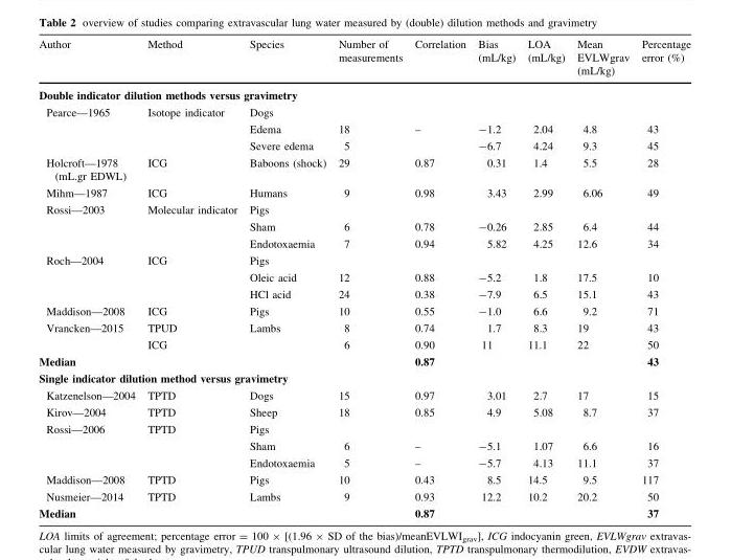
<table><thead><tr><td>Author</td><td>Method</td><td>Species</td><td>Number of measurements</td><td>Correlation</td><td>Bias (mL/kg)</td><td>LOA (mL/kg)</td><td>Mean EVLWgrav (mL/kg)</td><td>Percentage error (%)</td></tr></thead><tbody><tr><td colspan="9">Double indicator dilution methods versus gravimetry</td></tr><tr><td rowspan="3">Pearce—1965</td><td rowspan="3">Isotope indicator</td><td colspan="7">Dogs</td></tr><tr><td>Edema</td><td>18</td><td>–</td><td>-1.2</td><td>2.04</td><td>4.8</td><td>43</td></tr><tr><td>Severe edema</td><td>5</td><td></td><td>-6.7</td><td>4.24</td><td>9.3</td><td>45</td></tr><tr><td>Holcroft—1978 (mL.gr EDWL)</td><td>ICG</td><td>Baboons (shock)</td><td>29</td><td>0.87</td><td>0.31</td><td>1.4</td><td>5.5</td><td>28</td></tr><tr><td>Mihm—1987</td><td>ICG</td><td>Humans</td><td>9</td><td>0.98</td><td>3.43</td><td>2.99</td><td>6.06</td><td>49</td></tr><tr><td rowspan="3">Rossi—2003</td><td rowspan="3">Molecular indicator</td><td colspan="7">Pigs</td></tr><tr><td>Sham</td><td>6</td><td>0.78</td><td>-0.26</td><td>2.85</td><td>6.4</td><td>44</td></tr><tr><td>Endotoxaemia</td><td>7</td><td>0.94</td><td>5.82</td><td>4.25</td><td>12.6</td><td>34</td></tr><tr><td rowspan="3">Roch—2004</td><td rowspan="3">ICG</td><td colspan="7">Pigs</td></tr><tr><td>Oleic acid</td><td>12</td><td>0.88</td><td>-5.2</td><td>1.8</td><td>17.5</td><td>10</td></tr><tr><td>HCl acid</td><td>24</td><td>0.38</td><td>-7.9</td><td>6.5</td><td>15.1</td><td>43</td></tr><tr><td>Maddison—2008</td><td>ICG</td><td>Pigs</td><td>10</td><td>0.55</td><td>-1.0</td><td>6.6</td><td>9.2</td><td>71</td></tr><tr><td rowspan="2">Vrancken—2015</td><td>TPUD</td><td rowspan="2">Lambs</td><td>8</td><td>0.74</td><td>1.7</td><td>8.3</td><td>19</td><td>43</td></tr><tr><td>ICG</td><td>6</td><td>0.90</td><td>11</td><td>11.1</td><td>22</td><td>50</td></tr><tr><td>Median</td><td></td><td></td><td></td><td>0.87</td><td></td><td></td><td></td><td>43</td></tr><tr><td colspan="9">Single indicator dilution method versus gravimetry</td></tr><tr><td>Katzenelson—2004</td><td>TPTD</td><td>Dogs</td><td>15</td><td>0.97</td><td>3.01</td><td>2.7</td><td>17</td><td>15</td></tr><tr><td>Kirov—2004</td><td>TPTD</td><td>Sheep</td><td>18</td><td>0.85</td><td>4.9</td><td>5.08</td><td>8.7</td><td>37</td></tr><tr><td rowspan="3">Rossi—2006</td><td rowspan="3">TPTD</td><td colspan="7">Pigs</td></tr><tr><td>Sham</td><td>6</td><td>–</td><td>-5.1</td><td>1.07</td><td>6.6</td><td>16</td></tr><tr><td>Endotoxaemia</td><td>5</td><td>–</td><td>-5.7</td><td>4.13</td><td>11.1</td><td>37</td></tr><tr><td>Maddison—2008</td><td>TPTD</td><td>Pigs</td><td>10</td><td>0.43</td><td>8.5</td><td>14.5</td><td>9.5</td><td>117</td></tr><tr><td>Nusmeier—2014</td><td>TPTD</td><td>Lambs</td><td>9</td><td>0.93</td><td>12.2</td><td>10.2</td><td>20.2</td><td>50</td></tr><tr><td>Median</td><td></td><td></td><td></td><td>0.87</td><td></td><td></td><td></td><td>37</td></tr></tbody></table>